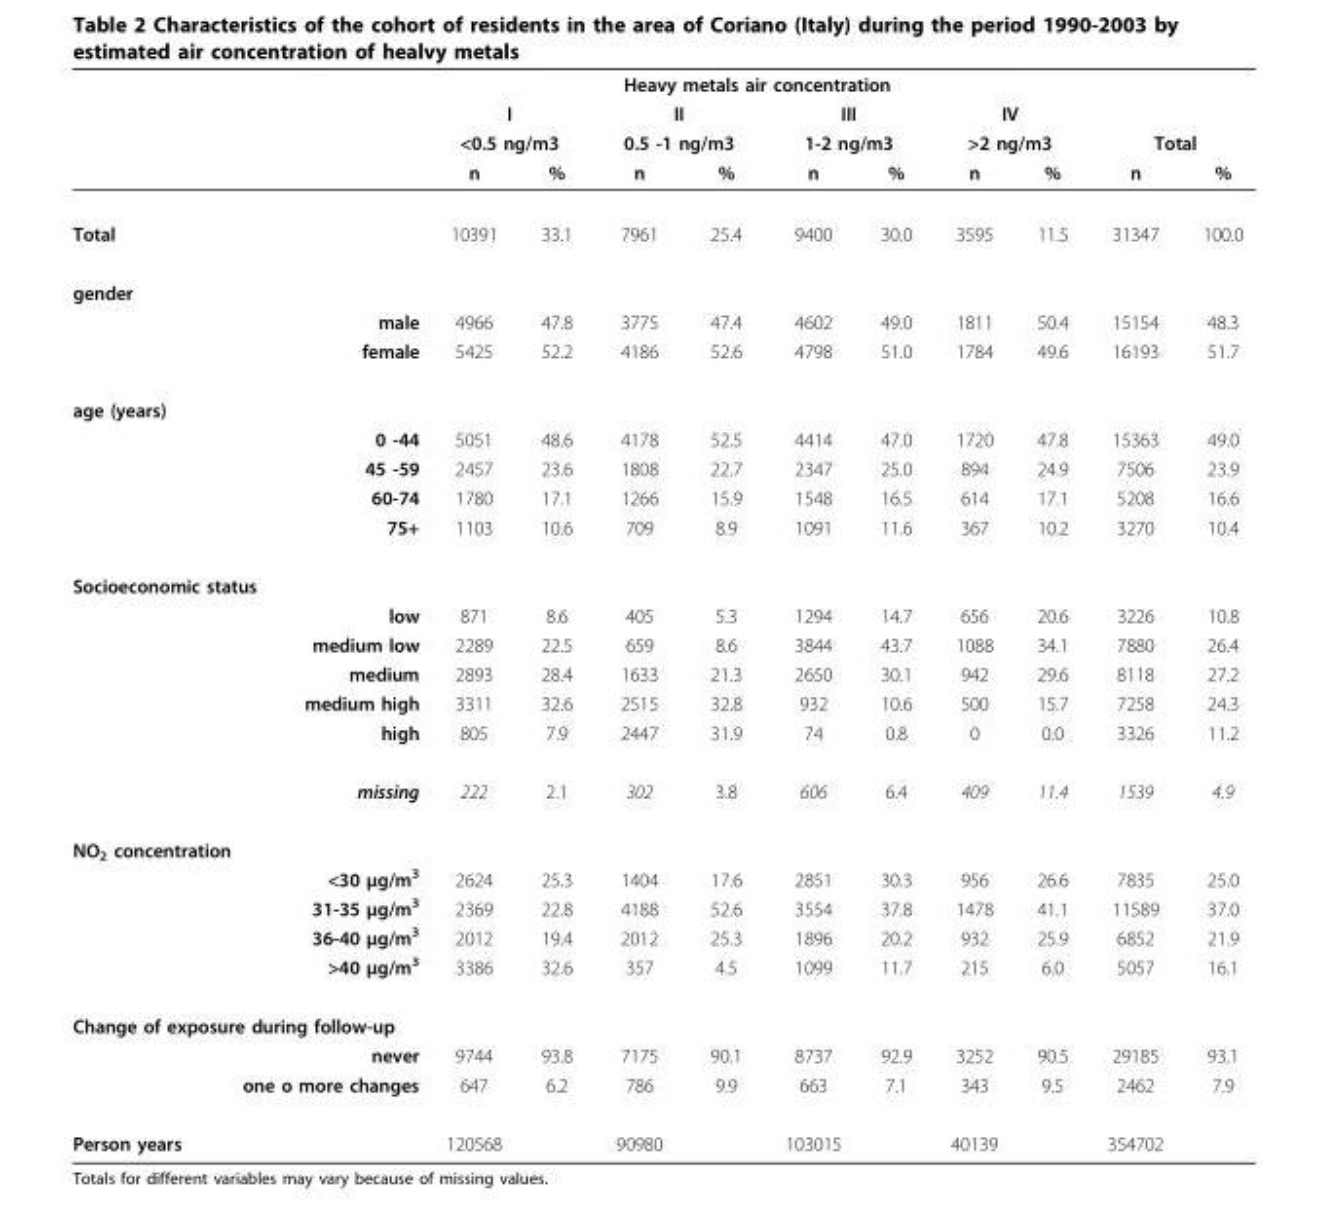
<table><thead><tr><td rowspan="4"></td><td colspan="8">Heavy metals air concentration</td><td rowspan="2"></td><td rowspan="2"></td></tr><tr><td rowspan="2" colspan="2">I &lt;0.5 ng/m3</td><td rowspan="2" colspan="2">II 0.5 -1 ng/m3</td><td rowspan="2" colspan="2">III 1-2 ng/m3</td><td rowspan="2" colspan="2">IV &gt;2 ng/m3</td></tr><tr><td colspan="2">Total</td></tr><tr><td>n</td><td>%</td><td>n</td><td>%</td><td>n</td><td>%</td><td>n</td><td>%</td><td>n</td><td>%</td></tr></thead><tbody><tr><td>Total</td><td>10391</td><td>33.1</td><td>7961</td><td>25.4</td><td>9400</td><td>30.0</td><td>3595</td><td>11.5</td><td>31347</td><td>100.0</td></tr><tr><td colspan="11">gender</td></tr><tr><td>male</td><td>4966</td><td>47.8</td><td>3775</td><td>47.4</td><td>4602</td><td>49.0</td><td>1811</td><td>50.4</td><td>15154</td><td>48.3</td></tr><tr><td>female</td><td>5425</td><td>52.2</td><td>4186</td><td>52.6</td><td>4798</td><td>51.0</td><td>1784</td><td>49.6</td><td>16193</td><td>51.7</td></tr><tr><td colspan="11">age (years)</td></tr><tr><td>0 -44</td><td>5051</td><td>48.6</td><td>4178</td><td>52.5</td><td>4414</td><td>47.0</td><td>1720</td><td>47.8</td><td>15363</td><td>49.0</td></tr><tr><td>45 -59</td><td>2457</td><td>23.6</td><td>1808</td><td>22.7</td><td>2347</td><td>25.0</td><td>894</td><td>24.9</td><td>7506</td><td>23.9</td></tr><tr><td>60-74</td><td>1780</td><td>17.1</td><td>1266</td><td>15.9</td><td>1548</td><td>16.5</td><td>614</td><td>17.1</td><td>5208</td><td>16.6</td></tr><tr><td>75+</td><td>1103</td><td>10.6</td><td>709</td><td>8.9</td><td>1091</td><td>11.6</td><td>367</td><td>10.2</td><td>3270</td><td>10.4</td></tr><tr><td colspan="11">Socioeconomic status</td></tr><tr><td>low</td><td>871</td><td>8.6</td><td>405</td><td>5.3</td><td>1294</td><td>14.7</td><td>656</td><td>20.6</td><td>3226</td><td>10.8</td></tr><tr><td>medium low</td><td>2289</td><td>22.5</td><td>659</td><td>8.6</td><td>3844</td><td>43.7</td><td>1088</td><td>34.1</td><td>7880</td><td>26.4</td></tr><tr><td>medium</td><td>2893</td><td>28.4</td><td>1633</td><td>21.3</td><td>2650</td><td>30.1</td><td>942</td><td>29.6</td><td>8118</td><td>27.2</td></tr><tr><td>medium high</td><td>3311</td><td>32.6</td><td>2515</td><td>32.8</td><td>932</td><td>10.6</td><td>500</td><td>15.7</td><td>7258</td><td>24.3</td></tr><tr><td>high</td><td>805</td><td>7.9</td><td>2447</td><td>31.9</td><td>74</td><td>0.8</td><td>0</td><td>0.0</td><td>3326</td><td>11.2</td></tr><tr><td>missing</td><td>222</td><td>2.1</td><td>302</td><td>3.8</td><td>606</td><td>6.4</td><td>409</td><td>11.4</td><td>1539</td><td>4.9</td></tr><tr><td colspan="11">NO<sub>2</sub> concentration</td></tr><tr><td>&lt;30 μg/m<sup>3</sup></td><td>2624</td><td>25.3</td><td>1404</td><td>17.6</td><td>2851</td><td>30.3</td><td>956</td><td>26.6</td><td>7835</td><td>25.0</td></tr><tr><td>31-35 μg/m<sup>3</sup></td><td>2369</td><td>22.8</td><td>4188</td><td>52.6</td><td>3554</td><td>37.8</td><td>1478</td><td>41.1</td><td>11589</td><td>37.0</td></tr><tr><td>36-40 μg/m<sup>3</sup></td><td>2012</td><td>19.4</td><td>2012</td><td>25.3</td><td>1896</td><td>20.2</td><td>932</td><td>25.9</td><td>6852</td><td>21.9</td></tr><tr><td>&gt;40 μg/m<sup>3</sup></td><td>3386</td><td>32.6</td><td>357</td><td>4.5</td><td>1099</td><td>11.7</td><td>215</td><td>6.0</td><td>5057</td><td>16.1</td></tr><tr><td colspan="11">Change of exposure during follow-up</td></tr><tr><td>never</td><td>9744</td><td>93.8</td><td>7175</td><td>90.1</td><td>8737</td><td>92.9</td><td>3252</td><td>90.5</td><td>29185</td><td>93.1</td></tr><tr><td>one o more changes</td><td>647</td><td>6.2</td><td>786</td><td>9.9</td><td>663</td><td>7.1</td><td>343</td><td>9.5</td><td>2462</td><td>7.9</td></tr><tr><td>Person years</td><td>120568</td><td></td><td>90980</td><td></td><td>103015</td><td></td><td>40139</td><td></td><td>354702</td><td></td></tr></tbody></table>